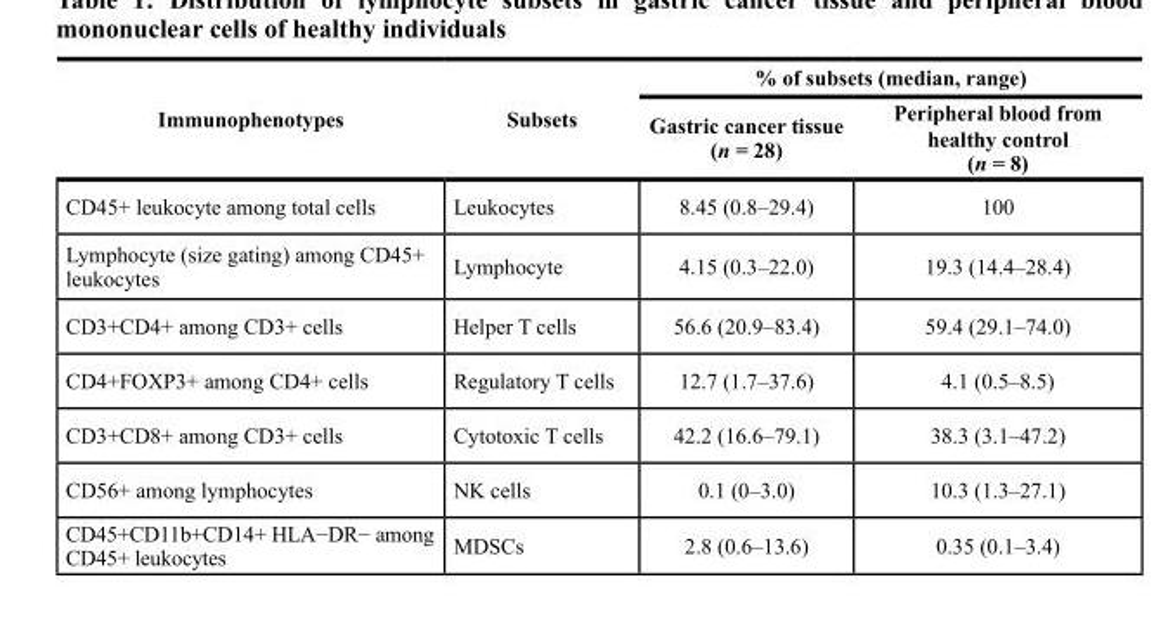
<table><thead><tr><td rowspan="2">Immunophenotypes</td><td rowspan="2">Subsets</td><td colspan="2">% of subsets (median, range)</td></tr><tr><td>Gastric cancer tissue (n = 28)</td><td>Peripheral blood from healthy control (n = 8)</td></tr></thead><tbody><tr><td>CD45+ leukocyte among total cells</td><td>Leukocytes</td><td>8.45 (0.8–29.4)</td><td>100</td></tr><tr><td>Lymphocyte (size gating) among CD45+ leukocytes</td><td>Lymphocyte</td><td>4.15 (0.3–22.0)</td><td>19.3 (14.4–28.4)</td></tr><tr><td>CD3+CD4+ among CD3+ cells</td><td>Helper T cells</td><td>56.6 (20.9–83.4)</td><td>59.4 (29.1–74.0)</td></tr><tr><td>CD4+FOXP3+ among CD4+ cells</td><td>Regulatory T cells</td><td>12.7 (1.7–37.6)</td><td>4.1 (0.5–8.5)</td></tr><tr><td>CD3+CD8+ among CD3+ cells</td><td>Cytotoxic T cells</td><td>42.2 (16.6–79.1)</td><td>38.3 (3.1–47.2)</td></tr><tr><td>CD56+ among lymphocytes</td><td>NK cells</td><td>0.1 (0–3.0)</td><td>10.3 (1.3–27.1)</td></tr><tr><td>CD45+CD11b+CD14+ HLA−DR− among CD45+ leukocytes</td><td>MDSCs</td><td>2.8 (0.6–13.6)</td><td>0.35 (0.1–3.4)</td></tr></tbody></table>